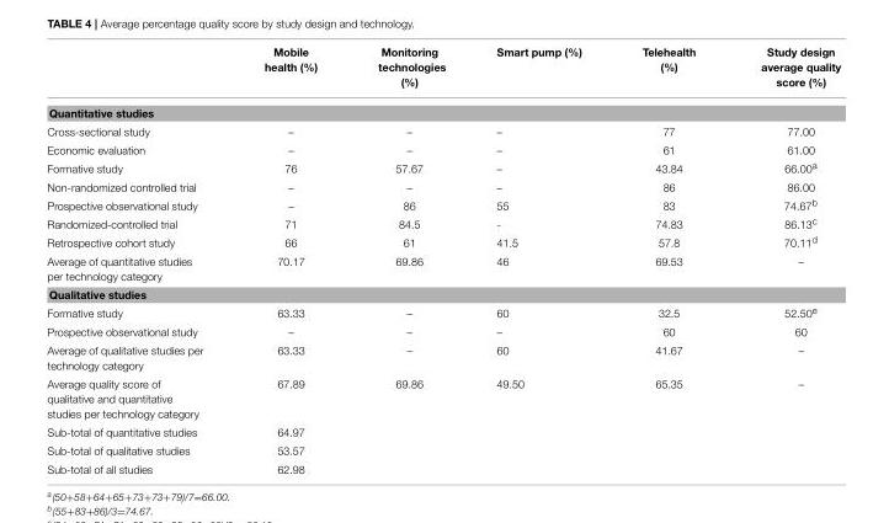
<table><thead><tr><td></td><td>Mobile health (%)</td><td>Monitoring technologies (%)</td><td>Smart pump (%)</td><td>Telehealth (%)</td><td>Study design average quality score (%)</td></tr></thead><tbody><tr><td colspan="6">Quantitative studies</td></tr><tr><td>Cross-sectional study</td><td>–</td><td>–</td><td>–</td><td>77</td><td>77.00</td></tr><tr><td>Economic evaluation</td><td>–</td><td>–</td><td>–</td><td>61</td><td>61.00</td></tr><tr><td>Formative study</td><td>76</td><td>57.67</td><td>–</td><td>43.84</td><td>66.00<sup>a</sup></td></tr><tr><td>Non-randomized controlled trial</td><td>–</td><td>–</td><td>–</td><td>86</td><td>86.00</td></tr><tr><td>Prospective observational study</td><td>–</td><td>86</td><td>55</td><td>83</td><td>74.67<sup>b</sup></td></tr><tr><td>Randomized-controlled trial</td><td>71</td><td>84.5</td><td>-</td><td>74.83</td><td>86.13<sup>c</sup></td></tr><tr><td>Retrospective cohort study</td><td>66</td><td>61</td><td>41.5</td><td>57.8</td><td>70.11<sup>d</sup></td></tr><tr><td>Average of quantitative studies per technology category</td><td>70.17</td><td>69.86</td><td>46</td><td>69.53</td><td>–</td></tr><tr><td colspan="6">Qualitative studies</td></tr><tr><td>Formative study</td><td>63.33</td><td>–</td><td>60</td><td>32.5</td><td>52.50<sup>e</sup></td></tr><tr><td>Prospective observational study</td><td>–</td><td>–</td><td>–</td><td>60</td><td>60</td></tr><tr><td>Average of qualitative studies per technology category</td><td>63.33</td><td>–</td><td>60</td><td>41.67</td><td>–</td></tr><tr><td>Average quality score of qualitative and quantitative studies per technology category</td><td>67.89</td><td>69.86</td><td>49.50</td><td>65.35</td><td>–</td></tr><tr><td>Sub-total of quantitative studies</td><td>64.97</td><td colspan="4"></td></tr><tr><td>Sub-total of qualitative studies</td><td>53.57</td><td colspan="4"></td></tr><tr><td>Sub-total of all studies</td><td>62.98</td><td colspan="4"></td></tr></tbody></table>